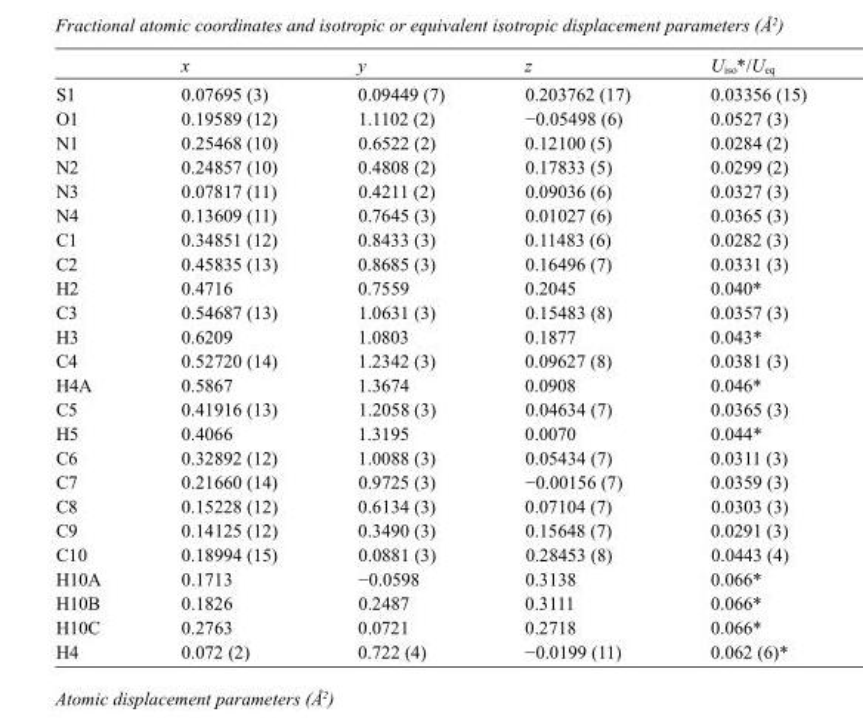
<table><thead><tr><td></td><td>x</td><td>y</td><td>z</td><td>U<sub>iso</sub>*/U<sub>eq</sub></td></tr></thead><tbody><tr><td>S1</td><td>0.07695 (3)</td><td>0.09449 (7)</td><td>0.203762 (17)</td><td>0.03356 (15)</td></tr><tr><td>O1</td><td>0.19589 (12)</td><td>1.1102 (2)</td><td>−0.05498 (6)</td><td>0.0527 (3)</td></tr><tr><td>N1</td><td>0.25468 (10)</td><td>0.6522 (2)</td><td>0.12100 (5)</td><td>0.0284 (2)</td></tr><tr><td>N2</td><td>0.24857 (10)</td><td>0.4808 (2)</td><td>0.17833 (5)</td><td>0.0299 (2)</td></tr><tr><td>N3</td><td>0.07817 (11)</td><td>0.4211 (2)</td><td>0.09036 (6)</td><td>0.0327 (3)</td></tr><tr><td>N4</td><td>0.13609 (11)</td><td>0.7645 (3)</td><td>0.01027 (6)</td><td>0.0365 (3)</td></tr><tr><td>C1</td><td>0.34851 (12)</td><td>0.8433 (3)</td><td>0.11483 (6)</td><td>0.0282 (3)</td></tr><tr><td>C2</td><td>0.45835 (13)</td><td>0.8685 (3)</td><td>0.16496 (7)</td><td>0.0331 (3)</td></tr><tr><td>H2</td><td>0.4716</td><td>0.7559</td><td>0.2045</td><td>0.040*</td></tr><tr><td>C3</td><td>0.54687 (13)</td><td>1.0631 (3)</td><td>0.15483 (8)</td><td>0.0357 (3)</td></tr><tr><td>H3</td><td>0.6209</td><td>1.0803</td><td>0.1877</td><td>0.043*</td></tr><tr><td>C4</td><td>0.52720 (14)</td><td>1.2342 (3)</td><td>0.09627 (8)</td><td>0.0381 (3)</td></tr><tr><td>H4A</td><td>0.5867</td><td>1.3674</td><td>0.0908</td><td>0.046*</td></tr><tr><td>C5</td><td>0.41916 (13)</td><td>1.2058 (3)</td><td>0.04634 (7)</td><td>0.0365 (3)</td></tr><tr><td>H5</td><td>0.4066</td><td>1.3195</td><td>0.0070</td><td>0.044*</td></tr><tr><td>C6</td><td>0.32892 (12)</td><td>1.0088 (3)</td><td>0.05434 (7)</td><td>0.0311 (3)</td></tr><tr><td>C7</td><td>0.21660 (14)</td><td>0.9725 (3)</td><td>−0.00156 (7)</td><td>0.0359 (3)</td></tr><tr><td>C8</td><td>0.15228 (12)</td><td>0.6134 (3)</td><td>0.07104 (7)</td><td>0.0303 (3)</td></tr><tr><td>C9</td><td>0.14125 (12)</td><td>0.3490 (3)</td><td>0.15648 (7)</td><td>0.0291 (3)</td></tr><tr><td>C10</td><td>0.18994 (15)</td><td>0.0881 (3)</td><td>0.28453 (8)</td><td>0.0443 (4)</td></tr><tr><td>H10A</td><td>0.1713</td><td>−0.0598</td><td>0.3138</td><td>0.066*</td></tr><tr><td>H10B</td><td>0.1826</td><td>0.2487</td><td>0.3111</td><td>0.066*</td></tr><tr><td>H10C</td><td>0.2763</td><td>0.0721</td><td>0.2718</td><td>0.066*</td></tr><tr><td>H4</td><td>0.072 (2)</td><td>0.722 (4)</td><td>−0.0199 (11)</td><td>0.062 (6)*</td></tr></tbody></table>